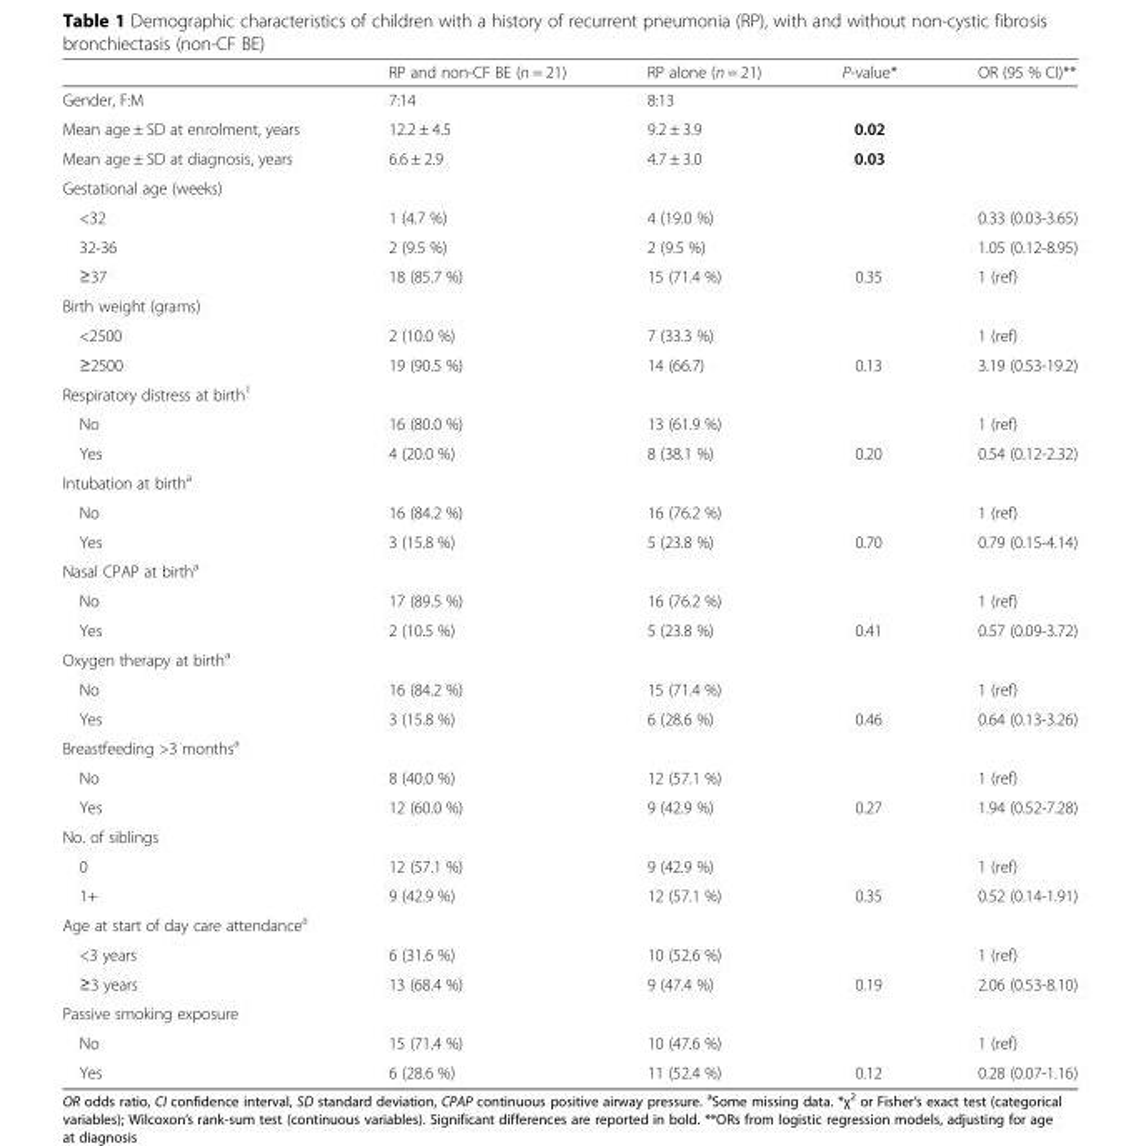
<table><thead><tr><td></td><td>RP and non-CF BE (n = 21)</td><td>RP alone (n = 21)</td><td>P-value*</td><td>OR (95 % CI)**</td></tr></thead><tbody><tr><td>Gender, F:M</td><td>7:14</td><td>8:13</td><td></td><td></td></tr><tr><td>Mean age ± SD at enrolment, years</td><td>12.2 ± 4.5</td><td>9.2 ± 3.9</td><td>0.02</td><td></td></tr><tr><td>Mean age ± SD at diagnosis, years</td><td>6.6 ± 2.9</td><td>4.7 ± 3.0</td><td>0.03</td><td></td></tr><tr><td colspan="5">Gestational age (weeks)</td></tr><tr><td>&lt;32</td><td>1 (4.7 %)</td><td>4 (19.0 %)</td><td></td><td>0.33 (0.03-3.65)</td></tr><tr><td>32-36</td><td>2 (9.5 %)</td><td>2 (9.5 %)</td><td></td><td>1.05 (0.12-8.95)</td></tr><tr><td>≥37</td><td>18 (85.7 %)</td><td>15 (71.4 %)</td><td>0.35</td><td>1 (ref)</td></tr><tr><td colspan="5">Birth weight (grams)</td></tr><tr><td>&lt;2500</td><td>2 (10.0 %)</td><td>7 (33.3 %)</td><td></td><td>1 (ref)</td></tr><tr><td>≥2500</td><td>19 (90.5 %)</td><td>14 (66.7)</td><td>0.13</td><td>3.19 (0.53-19.2)</td></tr><tr><td colspan="5">Respiratory distress at birth<sup>1</sup></td></tr><tr><td>No</td><td>16 (80.0 %)</td><td>13 (61.9 %)</td><td></td><td>1 (ref)</td></tr><tr><td>Yes</td><td>4 (20.0 %)</td><td>8 (38.1 %)</td><td>0.20</td><td>0.54 (0.12-2.32)</td></tr><tr><td colspan="5">Intubation at birth<sup>a</sup></td></tr><tr><td>No</td><td>16 (84.2 %)</td><td>16 (76.2 %)</td><td></td><td>1 (ref)</td></tr><tr><td>Yes</td><td>3 (15.8 %)</td><td>5 (23.8 %)</td><td>0.70</td><td>0.79 (0.15-4.14)</td></tr><tr><td colspan="5">Nasal CPAP at birth<sup>a</sup></td></tr><tr><td>No</td><td>17 (89.5 %)</td><td>16 (76.2 %)</td><td></td><td>1 (ref)</td></tr><tr><td>Yes</td><td>2 (10.5 %)</td><td>5 (23.8 %)</td><td>0.41</td><td>0.57 (0.09-3.72)</td></tr><tr><td colspan="5">Oxygen therapy at birth<sup>a</sup></td></tr><tr><td>No</td><td>16 (84.2 %)</td><td>15 (71.4 %)</td><td></td><td>1 (ref)</td></tr><tr><td>Yes</td><td>3 (15.8 %)</td><td>6 (28.6 %)</td><td>0.46</td><td>0.64 (0.13-3.26)</td></tr><tr><td colspan="5">Breastfeeding &gt;3 months<sup>a</sup></td></tr><tr><td>No</td><td>8 (40.0 %)</td><td>12 (57.1 %)</td><td></td><td>1 (ref)</td></tr><tr><td>Yes</td><td>12 (60.0 %)</td><td>9 (42.9 %)</td><td>0.27</td><td>1.94 (0.52-7.28)</td></tr><tr><td colspan="5">No. of siblings</td></tr><tr><td>0</td><td>12 (57.1 %)</td><td>9 (42.9 %)</td><td></td><td>1 (ref)</td></tr><tr><td>1+</td><td>9 (42.9 %)</td><td>12 (57.1 %)</td><td>0.35</td><td>0.52 (0.14-1.91)</td></tr><tr><td colspan="5">Age at start of day care attendance<sup>a</sup></td></tr><tr><td>&lt;3 years</td><td>6 (31.6 %)</td><td>10 (52.6 %)</td><td></td><td>1 (ref)</td></tr><tr><td>≥3 years</td><td>13 (68.4 %)</td><td>9 (47.4 %)</td><td>0.19</td><td>2.06 (0.53-8.10)</td></tr><tr><td colspan="5">Passive smoking exposure</td></tr><tr><td>No</td><td>15 (71.4 %)</td><td>10 (47.6 %)</td><td></td><td>1 (ref)</td></tr><tr><td>Yes</td><td>6 (28.6 %)</td><td>11 (52.4 %)</td><td>0.12</td><td>0.28 (0.07-1.16)</td></tr></tbody></table>